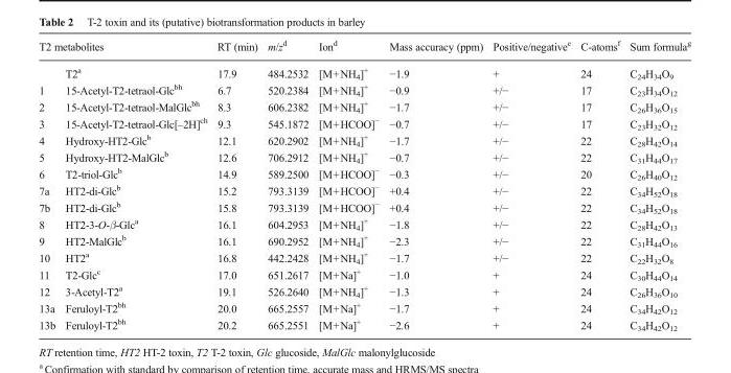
<table><thead><tr><td colspan="2">T2 metabolites</td><td rowspan="2">RT (min) 17.9</td><td rowspan="2">m/z<sup>d</sup> 484.2532</td><td rowspan="2">Ion<sup>d</sup> [M+NH<sub>4</sub>]<sup>+</sup></td><td rowspan="2">Mass accuracy (ppm) −1.9</td><td rowspan="2">Positive/negative<sup>e</sup> +</td><td rowspan="2">C-atoms<sup>f</sup> 24</td><td rowspan="2">Sum formula<sup>g</sup> C<sub>24</sub>H<sub>34</sub>O<sub>9</sub></td></tr><tr><td></td><td>T2<sup>a</sup></td></tr></thead><tbody><tr><td>1</td><td>15-Acetyl-T2-tetraol-Glc<sup>bh</sup></td><td>6.7</td><td>520.2384</td><td>[M+NH<sub>4</sub>]<sup>+</sup></td><td>−0.9</td><td>+/−</td><td>17</td><td>C<sub>23</sub>H<sub>34</sub>O<sub>12</sub></td></tr><tr><td>2</td><td>15-Acetyl-T2-tetraol-MalGlc<sup>bh</sup></td><td>8.3</td><td>606.2382</td><td>[M+NH<sub>4</sub>]<sup>+</sup></td><td>−1.7</td><td>+/−</td><td>17</td><td>C<sub>26</sub>H<sub>36</sub>O<sub>15</sub></td></tr><tr><td>3</td><td>15-Acetyl-T2-tetraol-Glc[–2H]<sup>ch</sup></td><td>9.3</td><td>545.1872</td><td>[M+HCOO]<sup>−</sup></td><td>−0.7</td><td>+/−</td><td>17</td><td>C<sub>23</sub>H<sub>32</sub>O<sub>12</sub></td></tr><tr><td>4</td><td>Hydroxy-HT2-Glc<sup>b</sup></td><td>12.1</td><td>620.2902</td><td>[M+NH<sub>4</sub>]<sup>+</sup></td><td>−1.7</td><td>+/−</td><td>22</td><td>C<sub>28</sub>H<sub>42</sub>O<sub>14</sub></td></tr><tr><td>5</td><td>Hydroxy-HT2-MalGlc<sup>b</sup></td><td>12.6</td><td>706.2912</td><td>[M+NH<sub>4</sub>]<sup>+</sup></td><td>−0.7</td><td>+/−</td><td>22</td><td>C<sub>31</sub>H<sub>44</sub>O<sub>17</sub></td></tr><tr><td>6</td><td>T2-triol-Glc<sup>b</sup></td><td>14.9</td><td>589.2500</td><td>[M+HCOO]<sup>−</sup></td><td>−0.3</td><td>+/−</td><td>20</td><td>C<sub>26</sub>H<sub>40</sub>O<sub>12</sub></td></tr><tr><td>7a</td><td>HT2-di-Glc<sup>b</sup></td><td>15.2</td><td>793.3139</td><td>[M+HCOO]<sup>−</sup></td><td>+0.4</td><td>+/−</td><td>22</td><td>C<sub>34</sub>H<sub>52</sub>O<sub>18</sub></td></tr><tr><td>7b</td><td>HT2-di-Glc<sup>b</sup></td><td>15.8</td><td>793.3139</td><td>[M+HCOO]<sup>−</sup></td><td>+0.4</td><td>+/−</td><td>22</td><td>C<sub>34</sub>H<sub>52</sub>O<sub>18</sub></td></tr><tr><td>8</td><td>HT2-3-O-β-Glc<sup>a</sup></td><td>16.1</td><td>604.2953</td><td>[M+NH<sub>4</sub>]<sup>+</sup></td><td>−1.8</td><td>+/−</td><td>22</td><td>C<sub>28</sub>H<sub>42</sub>O<sub>13</sub></td></tr><tr><td>9</td><td>HT2-MalGlc<sup>b</sup></td><td>16.1</td><td>690.2952</td><td>[M+NH<sub>4</sub>]<sup>+</sup></td><td>−2.3</td><td>+/−</td><td>22</td><td>C<sub>31</sub>H<sub>44</sub>O<sub>16</sub></td></tr><tr><td>10</td><td>HT2<sup>a</sup></td><td>16.8</td><td>442.2428</td><td>[M+NH<sub>4</sub>]<sup>+</sup></td><td>−1.7</td><td>+/−</td><td>22</td><td>C<sub>22</sub>H<sub>32</sub>O<sub>8</sub></td></tr><tr><td>11</td><td>T2-Glc<sup>c</sup></td><td>17.0</td><td>651.2617</td><td>[M+Na]<sup>+</sup></td><td>−1.0</td><td>+</td><td>24</td><td>C<sub>30</sub>H<sub>44</sub>O<sub>14</sub></td></tr><tr><td>12</td><td>3-Acetyl-T2<sup>a</sup></td><td>19.1</td><td>526.2640</td><td>[M+NH<sub>4</sub>]<sup>+</sup></td><td>−1.3</td><td>+</td><td>24</td><td>C<sub>26</sub>H<sub>36</sub>O<sub>10</sub></td></tr><tr><td>13a</td><td>Feruloyl-T2<sup>bh</sup></td><td>20.0</td><td>665.2557</td><td>[M+Na]<sup>+</sup></td><td>−1.7</td><td>+</td><td>24</td><td>C<sub>34</sub>H<sub>42</sub>O<sub>12</sub></td></tr><tr><td>13b</td><td>Feruloyl-T2<sup>bh</sup></td><td>20.2</td><td>665.2551</td><td>[M+Na]<sup>+</sup></td><td>−2.6</td><td>+</td><td>24</td><td>C<sub>34</sub>H<sub>42</sub>O<sub>12</sub></td></tr></tbody></table>